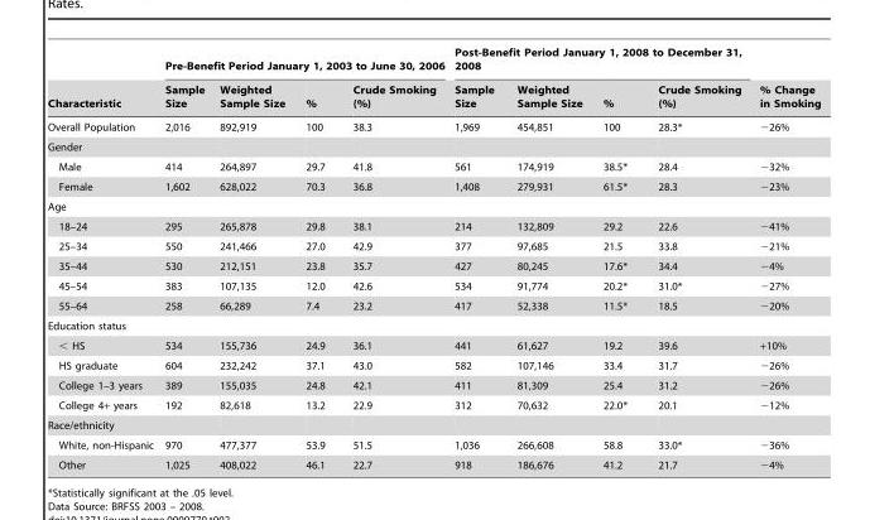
<table><thead><tr><td rowspan="2">Characteristic</td><td colspan="4">Pre-Benefit Period January 1, 2003 to June 30, 2006</td><td colspan="4">Post-Benefit Period January 1, 2008 to December 31, 2008</td><td rowspan="2">% Change in Smoking</td></tr><tr><td>Sample Size</td><td>Weighted Sample Size</td><td>%</td><td>Crude Smoking (%)</td><td>Sample Size</td><td>Weighted Sample Size</td><td>%</td><td>Crude Smoking (%)</td></tr></thead><tbody><tr><td>Overall Population</td><td>2,016</td><td>892,919</td><td>100</td><td>38.3</td><td>1,969</td><td>454,851</td><td>100</td><td>28.3*</td><td>−26%</td></tr><tr><td colspan="10">Gender</td></tr><tr><td>Male</td><td>414</td><td>264,897</td><td>29.7</td><td>41.8</td><td>561</td><td>174,919</td><td>38.5*</td><td>28.4</td><td>−32%</td></tr><tr><td>Female</td><td>1,602</td><td>628,022</td><td>70.3</td><td>36.8</td><td>1,408</td><td>279,931</td><td>61.5*</td><td>28.3</td><td>−23%</td></tr><tr><td colspan="10">Age</td></tr><tr><td>18–24</td><td>295</td><td>265,878</td><td>29.8</td><td>38.1</td><td>214</td><td>132,809</td><td>29.2</td><td>22.6</td><td>−41%</td></tr><tr><td>25–34</td><td>550</td><td>241,466</td><td>27.0</td><td>42.9</td><td>377</td><td>97,685</td><td>21.5</td><td>33.8</td><td>−21%</td></tr><tr><td>35–44</td><td>530</td><td>212,151</td><td>23.8</td><td>35.7</td><td>427</td><td>80,245</td><td>17.6*</td><td>34.4</td><td>−4%</td></tr><tr><td>45–54</td><td>383</td><td>107,135</td><td>12.0</td><td>42.6</td><td>534</td><td>91,774</td><td>20.2*</td><td>31.0*</td><td>−27%</td></tr><tr><td>55–64</td><td>258</td><td>66,289</td><td>7.4</td><td>23.2</td><td>417</td><td>52,338</td><td>11.5*</td><td>18.5</td><td>−20%</td></tr><tr><td colspan="10">Education status</td></tr><tr><td>&lt; HS</td><td>534</td><td>155,736</td><td>24.9</td><td>36.1</td><td>441</td><td>61,627</td><td>19.2</td><td>39.6</td><td>+10%</td></tr><tr><td>HS graduate</td><td>604</td><td>232,242</td><td>37.1</td><td>43.0</td><td>582</td><td>107,146</td><td>33.4</td><td>31.7</td><td>−26%</td></tr><tr><td>College 1–3 years</td><td>389</td><td>155,035</td><td>24.8</td><td>42.1</td><td>411</td><td>81,309</td><td>25.4</td><td>31.2</td><td>−26%</td></tr><tr><td>College 4+ years</td><td>192</td><td>82,618</td><td>13.2</td><td>22.9</td><td>312</td><td>70,632</td><td>22.0*</td><td>20.1</td><td>−12%</td></tr><tr><td colspan="10">Race/ethnicity</td></tr><tr><td>White, non-Hispanic</td><td>970</td><td>477,377</td><td>53.9</td><td>51.5</td><td>1,036</td><td>266,608</td><td>58.8</td><td>33.0*</td><td>−36%</td></tr><tr><td>Other</td><td>1,025</td><td>408,022</td><td>46.1</td><td>22.7</td><td>918</td><td>186,676</td><td>41.2</td><td>21.7</td><td>−4%</td></tr></tbody></table>